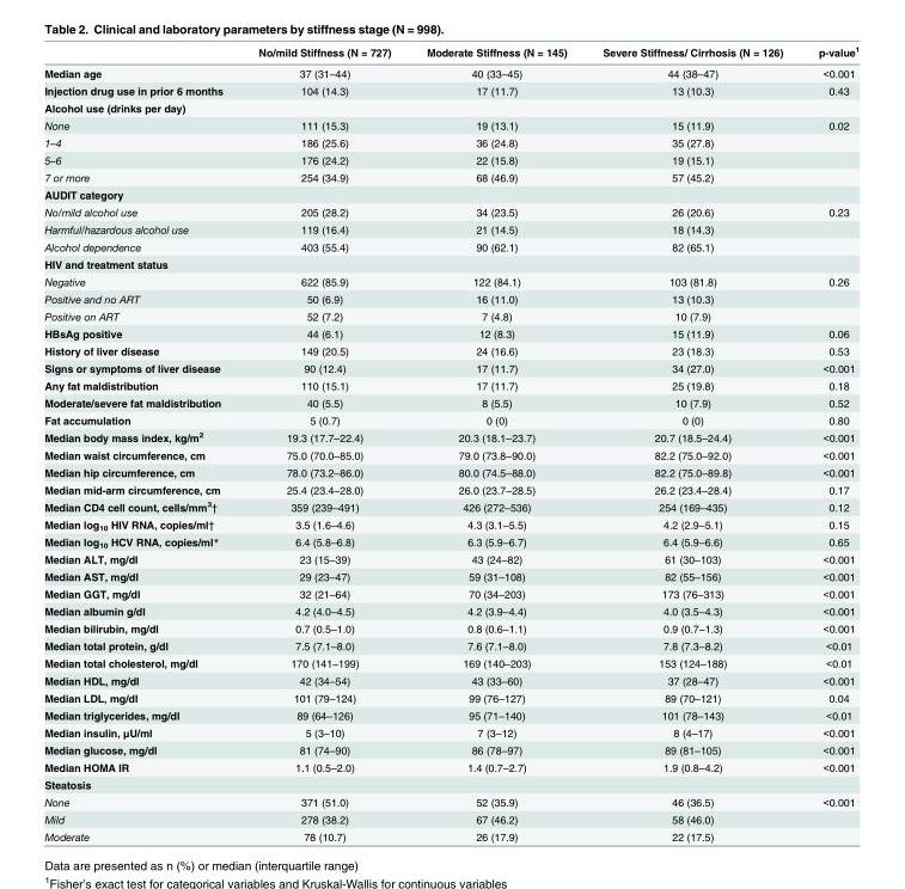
<table><thead><tr><td></td><td>No/mild Stiffness (N = 727)</td><td>Moderate Stiffness (N = 145)</td><td>Severe Stiffness/ Cirrhosis (N = 126)</td><td>p-value<sup>1</sup></td></tr></thead><tbody><tr><td>Median age</td><td>37 (31–44)</td><td>40 (33–45)</td><td>44 (38–47)</td><td>&lt;0.001</td></tr><tr><td>Injection drug use in prior 6 months</td><td>104 (14.3)</td><td>17 (11.7)</td><td>13 (10.3)</td><td>0.43</td></tr><tr><td colspan="5">Alcohol use (drinks per day)</td></tr><tr><td>None</td><td>111 (15.3)</td><td>19 (13.1)</td><td>15 (11.9)</td><td>0.02</td></tr><tr><td>1–4</td><td>186 (25.6)</td><td>36 (24.8)</td><td>35 (27.8)</td><td></td></tr><tr><td>5–6</td><td>176 (24.2)</td><td>22 (15.8)</td><td>19 (15.1)</td><td></td></tr><tr><td>7 or more</td><td>254 (34.9)</td><td>68 (46.9)</td><td>57 (45.2)</td><td></td></tr><tr><td colspan="5">AUDIT category</td></tr><tr><td>No/mild alcohol use</td><td>205 (28.2)</td><td>34 (23.5)</td><td>26 (20.6)</td><td>0.23</td></tr><tr><td>Harmful/hazardous alcohol use</td><td>119 (16.4)</td><td>21 (14.5)</td><td>18 (14.3)</td><td></td></tr><tr><td>Alcohol dependence</td><td>403 (55.4)</td><td>90 (62.1)</td><td>82 (65.1)</td><td></td></tr><tr><td colspan="5">HIV and treatment status</td></tr><tr><td>Negative</td><td>622 (85.9)</td><td>122 (84.1)</td><td>103 (81.8)</td><td>0.26</td></tr><tr><td>Positive and no ART</td><td>50 (6.9)</td><td>16 (11.0)</td><td>13 (10.3)</td><td></td></tr><tr><td>Positive on ART</td><td>52 (7.2)</td><td>7 (4.8)</td><td>10 (7.9)</td><td></td></tr><tr><td>HBsAg positive</td><td>44 (6.1)</td><td>12 (8.3)</td><td>15 (11.9)</td><td>0.06</td></tr><tr><td>History of liver disease</td><td>149 (20.5)</td><td>24 (16.6)</td><td>23 (18.3)</td><td>0.53</td></tr><tr><td>Signs or symptoms of liver disease</td><td>90 (12.4)</td><td>17 (11.7)</td><td>34 (27.0)</td><td>&lt;0.001</td></tr><tr><td>Any fat maldistribution</td><td>110 (15.1)</td><td>17 (11.7)</td><td>25 (19.8)</td><td>0.18</td></tr><tr><td>Moderate/severe fat maldistribution</td><td>40 (5.5)</td><td>8 (5.5)</td><td>10 (7.9)</td><td>0.52</td></tr><tr><td>Fat accumulation</td><td>5 (0.7)</td><td>0 (0)</td><td>0 (0)</td><td>0.80</td></tr><tr><td>Median body mass index, kg/m<sup>2</sup></td><td>19.3 (17.7–22.4)</td><td>20.3 (18.1–23.7)</td><td>20.7 (18.5–24.4)</td><td>&lt;0.001</td></tr><tr><td>Median waist circumference, cm</td><td>75.0 (70.0–85.0)</td><td>79.0 (73.8–90.0)</td><td>82.2 (75.0–92.0)</td><td>&lt;0.001</td></tr><tr><td>Median hip circumference, cm</td><td>78.0 (73.2–86.0)</td><td>80.0 (74.5–88.0)</td><td>82.2 (75.0–89.8)</td><td>&lt;0.001</td></tr><tr><td>Median mid-arm circumference, cm</td><td>25.4 (23.4–28.0)</td><td>26.0 (23.7–28.5)</td><td>26.2 (23.4–28.4)</td><td>0.17</td></tr><tr><td>Median CD4 cell count, cells/mm<sup>3</sup>†</td><td>359 (239–491)</td><td>426 (272–536)</td><td>254 (169–435)</td><td>0.12</td></tr><tr><td>Median log<sub>10</sub> HIV RNA, copies/ml†</td><td>3.5 (1.6–4.6)</td><td>4.3 (3.1–5.5)</td><td>4.2 (2.9–5.1)</td><td>0.15</td></tr><tr><td>Median log<sub>10</sub> HCV RNA, copies/ml*</td><td>6.4 (5.8–6.8)</td><td>6.3 (5.9–6.7)</td><td>6.4 (5.9–6.6)</td><td>0.65</td></tr><tr><td>Median ALT, mg/dl</td><td>23 (15–39)</td><td>43 (24–82)</td><td>61 (30–103)</td><td>&lt;0.001</td></tr><tr><td>Median AST, mg/dl</td><td>29 (23–47)</td><td>59 (31–108)</td><td>82 (55–156)</td><td>&lt;0.001</td></tr><tr><td>Median GGT, mg/dl</td><td>32 (21–64)</td><td>70 (34–203)</td><td>173 (76–313)</td><td>&lt;0.001</td></tr><tr><td>Median albumin g/dl</td><td>4.2 (4.0–4.5)</td><td>4.2 (3.9–4.4)</td><td>4.0 (3.5–4.3)</td><td>&lt;0.001</td></tr><tr><td>Median bilirubin, mg/dl</td><td>0.7 (0.5–1.0)</td><td>0.8 (0.6–1.1)</td><td>0.9 (0.7–1.3)</td><td>&lt;0.001</td></tr><tr><td>Median total protein, g/dl</td><td>7.5 (7.1–8.0)</td><td>7.6 (7.1–8.0)</td><td>7.8 (7.3–8.2)</td><td>&lt;0.01</td></tr><tr><td>Median total cholesterol, mg/dl</td><td>170 (141–199)</td><td>169 (140–203)</td><td>153 (124–188)</td><td>&lt;0.01</td></tr><tr><td>Median HDL, mg/dl</td><td>42 (34–54)</td><td>43 (33–60)</td><td>37 (28–47)</td><td>&lt;0.001</td></tr><tr><td>Median LDL, mg/dl</td><td>101 (79–124)</td><td>99 (76–127)</td><td>89 (70–121)</td><td>0.04</td></tr><tr><td>Median triglycerides, mg/dl</td><td>89 (64–126)</td><td>95 (71–140)</td><td>101 (78–143)</td><td>&lt;0.01</td></tr><tr><td>Median insulin, μU/ml</td><td>5 (3–10)</td><td>7 (3–12)</td><td>8 (4–17)</td><td>&lt;0.001</td></tr><tr><td>Median glucose, mg/dl</td><td>81 (74–90)</td><td>86 (78–97)</td><td>89 (81–105)</td><td>&lt;0.001</td></tr><tr><td>Median HOMA IR</td><td>1.1 (0.5–2.0)</td><td>1.4 (0.7–2.7)</td><td>1.9 (0.8–4.2)</td><td>&lt;0.001</td></tr><tr><td colspan="5">Steatosis</td></tr><tr><td>None</td><td>371 (51.0)</td><td>52 (35.9)</td><td>46 (36.5)</td><td>&lt;0.001</td></tr><tr><td>Mild</td><td>278 (38.2)</td><td>67 (46.2)</td><td>58 (46.0)</td><td></td></tr><tr><td>Moderate</td><td>78 (10.7)</td><td>26 (17.9)</td><td>22 (17.5)</td><td></td></tr></tbody></table>